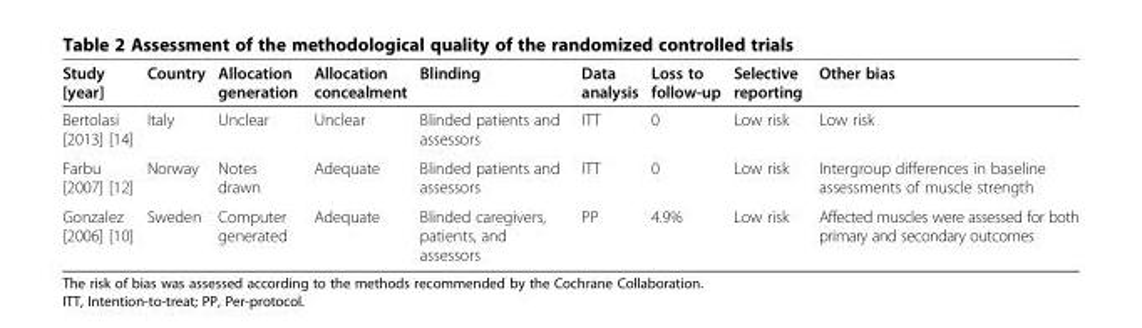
<table><thead><tr><td>Study [year]</td><td>Country</td><td>Allocation generation</td><td>Allocation concealment</td><td>Blinding</td><td>Data analysis</td><td>Loss to follow-up</td><td>Selective reporting</td><td>Other bias</td></tr></thead><tbody><tr><td>Bertolasi [2013] [14]</td><td>Italy</td><td>Unclear</td><td>Unclear</td><td>Blinded patients and assessors</td><td>ITT</td><td>0</td><td>Low risk</td><td>Low risk</td></tr><tr><td>Farbu [2007] [12]</td><td>Norway</td><td>Notes drawn</td><td>Adequate</td><td>Blinded patients and assessors</td><td>ITT</td><td>0</td><td>Low risk</td><td>Intergroup differences in baseline assessments of muscle strength</td></tr><tr><td>Gonzalez [2006] [10]</td><td>Sweden</td><td>Computer generated</td><td>Adequate</td><td>Blinded caregivers, patients, and assessors</td><td>PP</td><td>4.9%</td><td>Low risk</td><td>Affected muscles were assessed for both primary and secondary outcomes</td></tr></tbody></table>